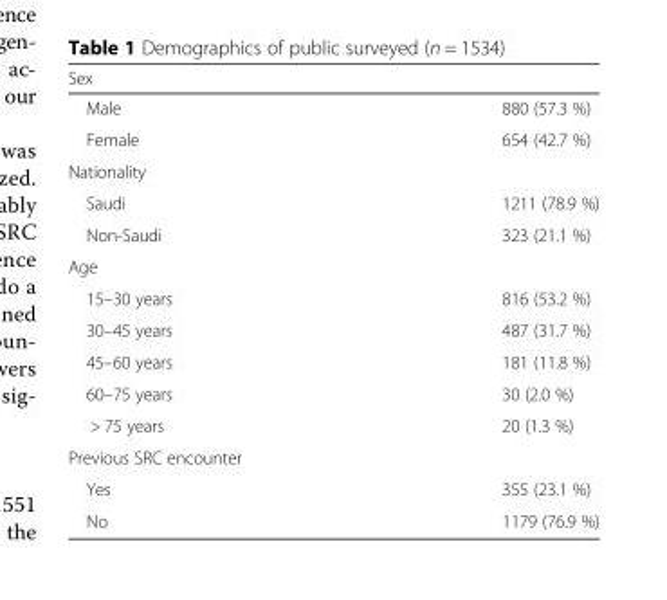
<table><thead><tr><td colspan="2">Sex</td></tr><tr><td>Male</td><td>880 (57.3 %)</td></tr></thead><tbody><tr><td>Female</td><td>654 (42.7 %)</td></tr><tr><td colspan="2">Nationality</td></tr><tr><td>Saudi</td><td>1211 (78.9 %)</td></tr><tr><td>Non-Saudi</td><td>323 (21.1 %)</td></tr><tr><td colspan="2">Age</td></tr><tr><td>15–30 years</td><td>816 (53.2 %)</td></tr><tr><td>30–45 years</td><td>487 (31.7 %)</td></tr><tr><td>45–60 years</td><td>181 (11.8 %)</td></tr><tr><td>60–75 years</td><td>30 (2.0 %)</td></tr><tr><td>&gt; 75 years</td><td>20 (1.3 %)</td></tr><tr><td colspan="2">Previous SRC encounter</td></tr><tr><td>Yes</td><td>355 (23.1 %)</td></tr><tr><td>No</td><td>1179 (76.9 %)</td></tr></tbody></table>